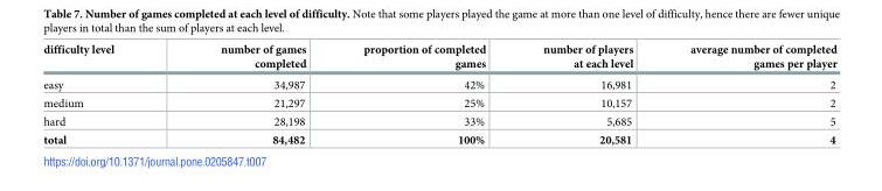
<table><thead><tr><td>difficulty level</td><td>number of games completed</td><td>proportion of completed games</td><td>number of players at each level</td><td>average number of completed games per player</td></tr></thead><tbody><tr><td>easy</td><td>34,987</td><td>42%</td><td>16,981</td><td>2</td></tr><tr><td>medium</td><td>21,297</td><td>25%</td><td>10,157</td><td>2</td></tr><tr><td>hard</td><td>28,198</td><td>33%</td><td>5,685</td><td>5</td></tr><tr><td>total</td><td>84,482</td><td>100%</td><td>20,581</td><td>4</td></tr></tbody></table>